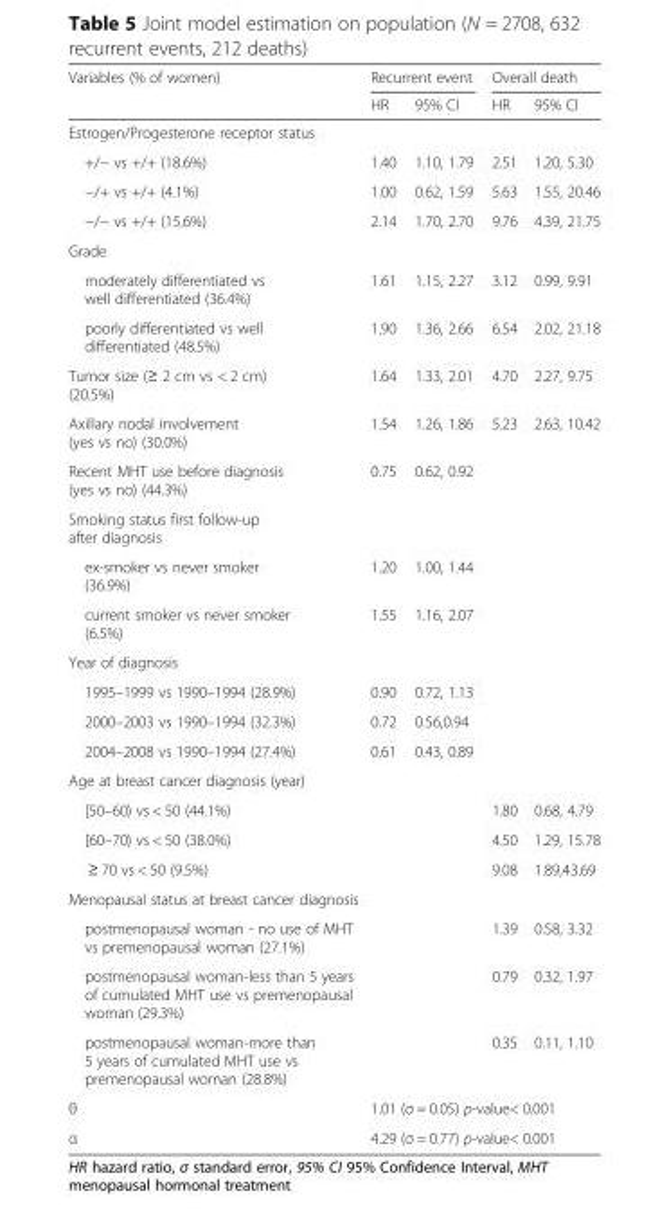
<table><thead><tr><td rowspan="2">Variables (% of women)</td><td colspan="2">Recurrent event</td><td colspan="2">Overall death</td></tr><tr><td>HR</td><td>95% CI</td><td>HR</td><td>95% CI</td></tr></thead><tbody><tr><td colspan="5">Estrogen/Progesterone receptor status</td></tr><tr><td>+/− vs +/+ (18.6%)</td><td>1.40</td><td>1.10, 1.79</td><td>2.51</td><td>1.20, 5.30</td></tr><tr><td>−/+ vs +/+ (4.1%)</td><td>1.00</td><td>0.62, 1.59</td><td>5.63</td><td>1.55, 20.46</td></tr><tr><td>−/− vs +/+ (15.6%)</td><td>2.14</td><td>1.70, 2.70</td><td>9.76</td><td>4.39, 21.75</td></tr><tr><td colspan="5">Grade</td></tr><tr><td>moderately differentiated vs well differentiated (36.4%)</td><td>1.61</td><td>1.15, 2.27</td><td>3.12</td><td>0.99, 9.91</td></tr><tr><td>poorly differentiated vs well differentiated (48.5%)</td><td>1.90</td><td>1.36, 2.66</td><td>6.54</td><td>2.02, 21.18</td></tr><tr><td>Tumor size (≥ 2 cm vs &lt; 2 cm) (20.5%)</td><td>1.64</td><td>1.33, 2.01</td><td>4.70</td><td>2.27, 9.75</td></tr><tr><td>Axillary nodal involvement (yes vs no) (30.0%)</td><td>1.54</td><td>1.26, 1.86</td><td>5.23</td><td>2.63, 10.42</td></tr><tr><td>Recent MHT use before diagnosis (yes vs no) (44.3%)</td><td>0.75</td><td>0.62, 0.92</td><td></td><td></td></tr><tr><td colspan="5">Smoking status first follow-up after diagnosis</td></tr><tr><td>ex-smoker vs never smoker (36.9%)</td><td>1.20</td><td>1.00, 1.44</td><td></td><td></td></tr><tr><td>current smoker vs never smoker (6.5%)</td><td>1.55</td><td>1.16, 2.07</td><td></td><td></td></tr><tr><td colspan="5">Year of diagnosis</td></tr><tr><td>1995–1999 vs 1990–1994 (28.9%)</td><td>0.90</td><td>0.72, 1.13</td><td></td><td></td></tr><tr><td>2000–2003 vs 1990–1994 (32.3%)</td><td>0.72</td><td>0.56,0.94</td><td></td><td></td></tr><tr><td>2004–2008 vs 1990–1994 (27.4%)</td><td>0.61</td><td>0.43, 0.89</td><td></td><td></td></tr><tr><td colspan="5">Age at breast cancer diagnosis (year)</td></tr><tr><td>[50–60) vs &lt; 50 (44.1%)</td><td></td><td></td><td>1.80</td><td>0.68, 4.79</td></tr><tr><td>[60–70) vs &lt; 50 (38.0%)</td><td></td><td></td><td>4.50</td><td>1.29, 15.78</td></tr><tr><td>≥ 70 vs &lt; 50 (9.5%)</td><td></td><td></td><td>9.08</td><td>1.89,43.69</td></tr><tr><td colspan="5">Menopausal status at breast cancer diagnosis</td></tr><tr><td>postmenopausal woman - no use of MHT vs premenopausal woman (27.1%)</td><td></td><td></td><td>1.39</td><td>0.58, 3.32</td></tr><tr><td>postmenopausal woman-less than 5 years of cumulated MHT use vs premenopausal woman (29.3%)</td><td></td><td></td><td>0.79</td><td>0.32, 1.97</td></tr><tr><td>postmenopausal woman-more than 5 years of cumulated MHT use vs premenopausal woman (28.8%)</td><td></td><td></td><td>0.35</td><td>0.11, 1.10</td></tr><tr><td>θ</td><td colspan="4">1.01 (σ = 0.05) p-value&lt; 0.001</td></tr><tr><td>α</td><td colspan="4">4.29 (σ = 0.77) p-value&lt; 0.001</td></tr></tbody></table>